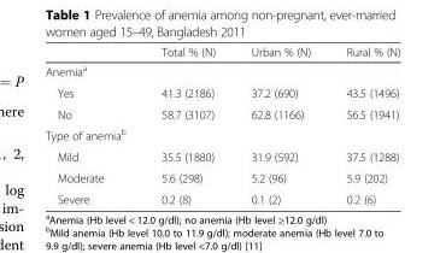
<table><thead><tr><td></td><td>Total % (N)</td><td>Urban % (N)</td><td>Rural % (N)</td></tr></thead><tbody><tr><td colspan="4">Anemia<sup>a</sup></td></tr><tr><td>Yes</td><td>41.3 (2186)</td><td>37.2 (690)</td><td>43.5 (1496)</td></tr><tr><td>No</td><td>58.7 (3107)</td><td>62.8 (1166)</td><td>56.5 (1941)</td></tr><tr><td colspan="4">Type of anemia<sup>b</sup></td></tr><tr><td>Mild</td><td>35.5 (1880)</td><td>31.9 (592)</td><td>37.5 (1288)</td></tr><tr><td>Moderate</td><td>5.6 (298)</td><td>5.2 (96)</td><td>5.9 (202)</td></tr><tr><td>Severe</td><td>0.2 (8)</td><td>0.1 (2)</td><td>0.2 (6)</td></tr></tbody></table>